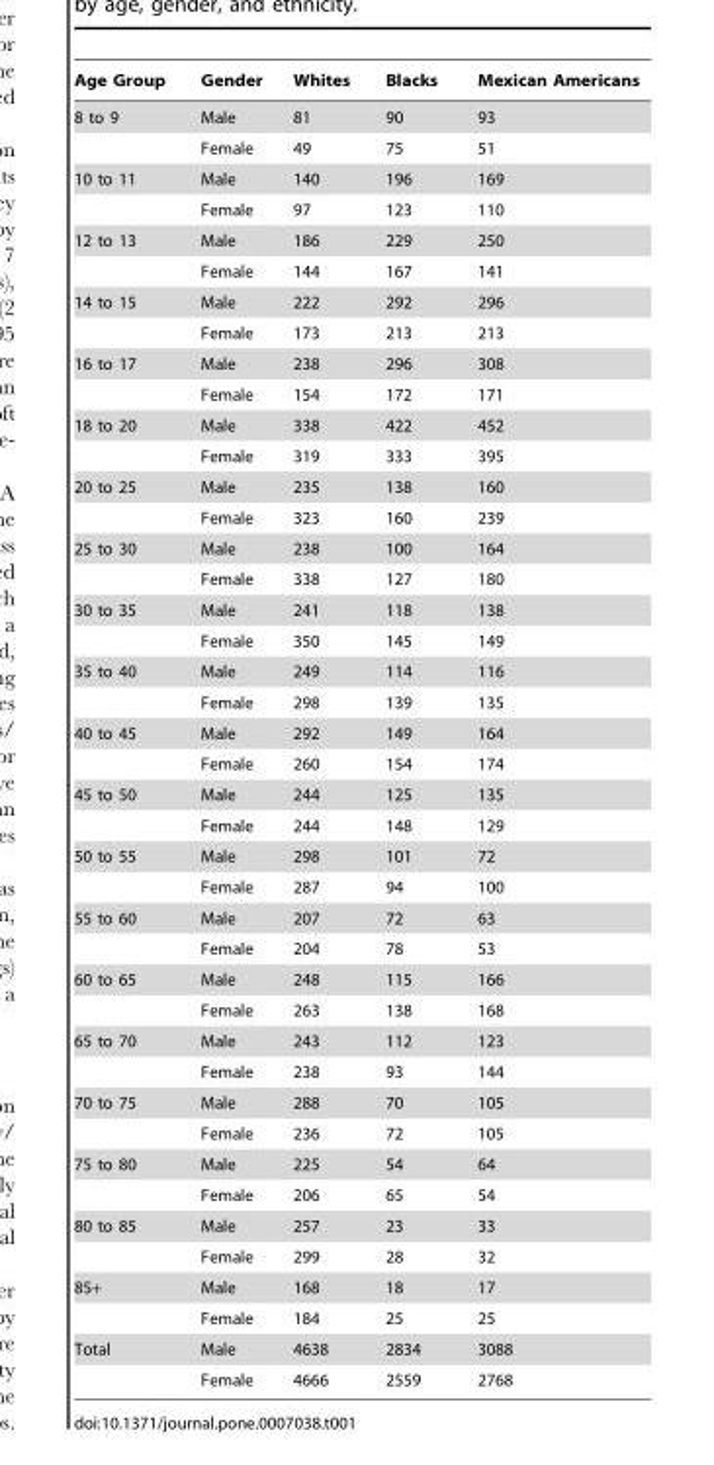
<table><thead><tr><td>Age Group</td><td>Gender</td><td>Whites</td><td>Blacks</td><td>Mexican Americans</td></tr></thead><tbody><tr><td rowspan="2">8 to 9</td><td>Male</td><td>81</td><td>90</td><td>93</td></tr><tr><td>Female</td><td>49</td><td>75</td><td>51</td></tr><tr><td rowspan="2">10 to 11</td><td>Male</td><td>140</td><td>196</td><td>169</td></tr><tr><td>Female</td><td>97</td><td>123</td><td>110</td></tr><tr><td rowspan="2">12 to 13</td><td>Male</td><td>186</td><td>229</td><td>250</td></tr><tr><td>Female</td><td>144</td><td>167</td><td>141</td></tr><tr><td rowspan="2">14 to 15</td><td>Male</td><td>222</td><td>292</td><td>296</td></tr><tr><td>Female</td><td>173</td><td>213</td><td>213</td></tr><tr><td rowspan="2">16 to 17</td><td>Male</td><td>238</td><td>296</td><td>308</td></tr><tr><td>Female</td><td>154</td><td>172</td><td>171</td></tr><tr><td rowspan="2">18 to 20</td><td>Male</td><td>338</td><td>422</td><td>452</td></tr><tr><td>Female</td><td>319</td><td>333</td><td>395</td></tr><tr><td rowspan="2">20 to 25</td><td>Male</td><td>235</td><td>138</td><td>160</td></tr><tr><td>Female</td><td>323</td><td>160</td><td>239</td></tr><tr><td rowspan="2">25 to 30</td><td>Male</td><td>238</td><td>100</td><td>164</td></tr><tr><td>Female</td><td>338</td><td>127</td><td>180</td></tr><tr><td rowspan="2">30 to 35</td><td>Male</td><td>241</td><td>118</td><td>138</td></tr><tr><td>Female</td><td>350</td><td>145</td><td>149</td></tr><tr><td rowspan="2">35 to 40</td><td>Male</td><td>249</td><td>114</td><td>116</td></tr><tr><td>Female</td><td>298</td><td>139</td><td>135</td></tr><tr><td rowspan="2">40 to 45</td><td>Male</td><td>292</td><td>149</td><td>164</td></tr><tr><td>Female</td><td>260</td><td>154</td><td>174</td></tr><tr><td rowspan="2">45 to 50</td><td>Male</td><td>244</td><td>125</td><td>135</td></tr><tr><td>Female</td><td>244</td><td>148</td><td>129</td></tr><tr><td rowspan="2">50 to 55</td><td>Male</td><td>298</td><td>101</td><td>72</td></tr><tr><td>Female</td><td>287</td><td>94</td><td>100</td></tr><tr><td rowspan="2">55 to 60</td><td>Male</td><td>207</td><td>72</td><td>63</td></tr><tr><td>Female</td><td>204</td><td>78</td><td>53</td></tr><tr><td rowspan="2">60 to 65</td><td>Male</td><td>248</td><td>115</td><td>166</td></tr><tr><td>Female</td><td>263</td><td>138</td><td>168</td></tr><tr><td rowspan="2">65 to 70</td><td>Male</td><td>243</td><td>112</td><td>123</td></tr><tr><td>Female</td><td>238</td><td>93</td><td>144</td></tr><tr><td rowspan="2">70 to 75</td><td>Male</td><td>288</td><td>70</td><td>105</td></tr><tr><td>Female</td><td>236</td><td>72</td><td>105</td></tr><tr><td rowspan="2">75 to 80</td><td>Male</td><td>225</td><td>54</td><td>64</td></tr><tr><td>Female</td><td>206</td><td>65</td><td>54</td></tr><tr><td rowspan="2">80 to 85</td><td>Male</td><td>257</td><td>23</td><td>33</td></tr><tr><td>Female</td><td>299</td><td>28</td><td>32</td></tr><tr><td rowspan="2">85+</td><td>Male</td><td>168</td><td>18</td><td>17</td></tr><tr><td>Female</td><td>184</td><td>25</td><td>25</td></tr><tr><td rowspan="2">Total</td><td>Male</td><td>4638</td><td>2834</td><td>3088</td></tr><tr><td>Female</td><td>4666</td><td>2559</td><td>2768</td></tr></tbody></table>